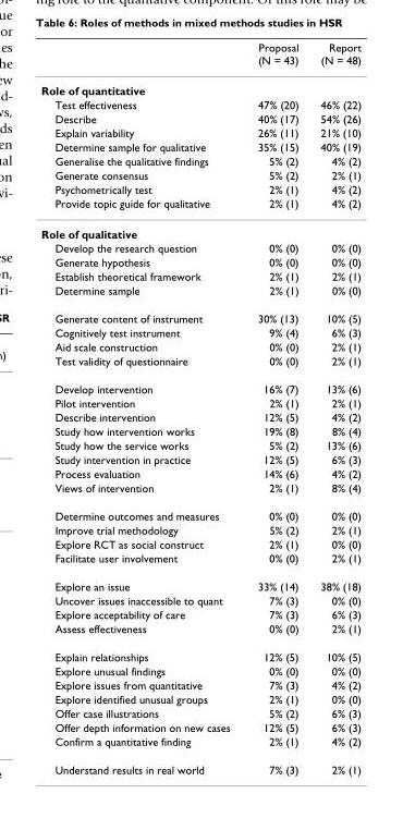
<table><thead><tr><td></td><td>Proposal (N = 43)</td><td>Report (N = 48)</td></tr></thead><tbody><tr><td colspan="3">Role of quantitative</td></tr><tr><td>Test effectiveness</td><td>47% (20)</td><td>46% (22)</td></tr><tr><td>Describe</td><td>40% (17)</td><td>54% (26)</td></tr><tr><td>Explain variability</td><td>26% (11)</td><td>21% (10)</td></tr><tr><td>Determine sample for qualitative</td><td>35% (15)</td><td>40% (19)</td></tr><tr><td>Generalise the qualitative findings</td><td>5% (2)</td><td>4% (2)</td></tr><tr><td>Generate consensus</td><td>5% (2)</td><td>2% (1)</td></tr><tr><td>Psychometrically test</td><td>2% (1)</td><td>4% (2)</td></tr><tr><td>Provide topic guide for qualitative</td><td>2% (1)</td><td>4% (2)</td></tr><tr><td colspan="3">Role of qualitative</td></tr><tr><td>Develop the research question</td><td>0% (0)</td><td>0% (0)</td></tr><tr><td>Generate hypothesis</td><td>0% (0)</td><td>0% (0)</td></tr><tr><td>Establish theoretical framework</td><td>2% (1)</td><td>2% (1)</td></tr><tr><td>Determine sample</td><td>2% (1)</td><td>0% (0)</td></tr><tr><td>Generate content of instrument</td><td>30% (13)</td><td>10% (5)</td></tr><tr><td>Cognitively test instrument</td><td>9% (4)</td><td>6% (3)</td></tr><tr><td>Aid scale construction</td><td>0% (0)</td><td>2% (1)</td></tr><tr><td>Test validity of questionnaire</td><td>0% (0)</td><td>2% (1)</td></tr><tr><td>Develop intervention</td><td>16% (7)</td><td>13% (6)</td></tr><tr><td>Pilot intervention</td><td>2% (1)</td><td>2% (1)</td></tr><tr><td>Describe intervention</td><td>12% (5)</td><td>4% (2)</td></tr><tr><td>Study how intervention works</td><td>19% (8)</td><td>8% (4)</td></tr><tr><td>Study how the service works</td><td>5% (2)</td><td>13% (6)</td></tr><tr><td>Study intervention in practice</td><td>12% (5)</td><td>6% (3)</td></tr><tr><td>Process evaluation</td><td>14% (6)</td><td>4% (2)</td></tr><tr><td>Views of intervention</td><td>2% (1)</td><td>8% (4)</td></tr><tr><td>Determine outcomes and measures</td><td>0% (0)</td><td>0% (0)</td></tr><tr><td>Improve trial methodology</td><td>5% (2)</td><td>2% (1)</td></tr><tr><td>Explore RCT as social construct</td><td>2% (1)</td><td>0% (0)</td></tr><tr><td>Facilitate user involvement</td><td>0% (0)</td><td>2% (1)</td></tr><tr><td>Explore an issue</td><td>33% (14)</td><td>38% (18)</td></tr><tr><td>Uncover issues inaccessible to quant</td><td>7% (3)</td><td>0% (0)</td></tr><tr><td>Explore acceptability of care</td><td>7% (3)</td><td>6% (3)</td></tr><tr><td>Assess effectiveness</td><td>0% (0)</td><td>2% (1)</td></tr><tr><td>Explain relationships</td><td>12% (5)</td><td>10% (5)</td></tr><tr><td>Explore unusual findings</td><td>0% (0)</td><td>0% (0)</td></tr><tr><td>Explore issues from quantitative</td><td>7% (3)</td><td>4% (2)</td></tr><tr><td>Explore identified unusual groups</td><td>2% (1)</td><td>0% (0)</td></tr><tr><td>Offer case illustrations</td><td>5% (2)</td><td>6% (3)</td></tr><tr><td>Offer depth information on new cases</td><td>12% (5)</td><td>6% (3)</td></tr><tr><td>Confirm a quantitative finding</td><td>2% (1)</td><td>4% (2)</td></tr><tr><td>Understand results in real world</td><td>7% (3)</td><td>2% (1)</td></tr></tbody></table>